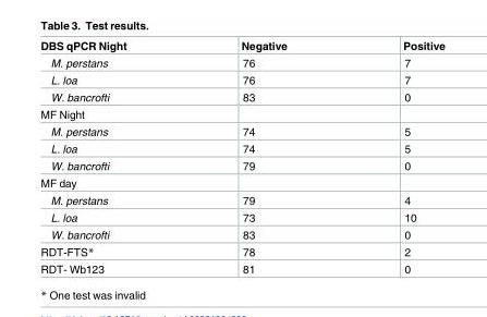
<table><thead><tr><td>DBS qPCR Night</td><td>Negative</td><td>Positive</td></tr></thead><tbody><tr><td>M. perstans</td><td>76</td><td>7</td></tr><tr><td>L. loa</td><td>76</td><td>7</td></tr><tr><td>W. bancrofti</td><td>83</td><td>0</td></tr><tr><td colspan="3">MF Night</td></tr><tr><td>M. perstans</td><td>74</td><td>5</td></tr><tr><td>L. loa</td><td>74</td><td>5</td></tr><tr><td>W. bancrofti</td><td>79</td><td>0</td></tr><tr><td colspan="3">MF day</td></tr><tr><td>M. perstans</td><td>79</td><td>4</td></tr><tr><td>L. loa</td><td>73</td><td>10</td></tr><tr><td>W. bancrofti</td><td>83</td><td>0</td></tr><tr><td>RDT-FTS*</td><td>78</td><td>2</td></tr><tr><td>RDT- Wb123</td><td>81</td><td>0</td></tr></tbody></table>